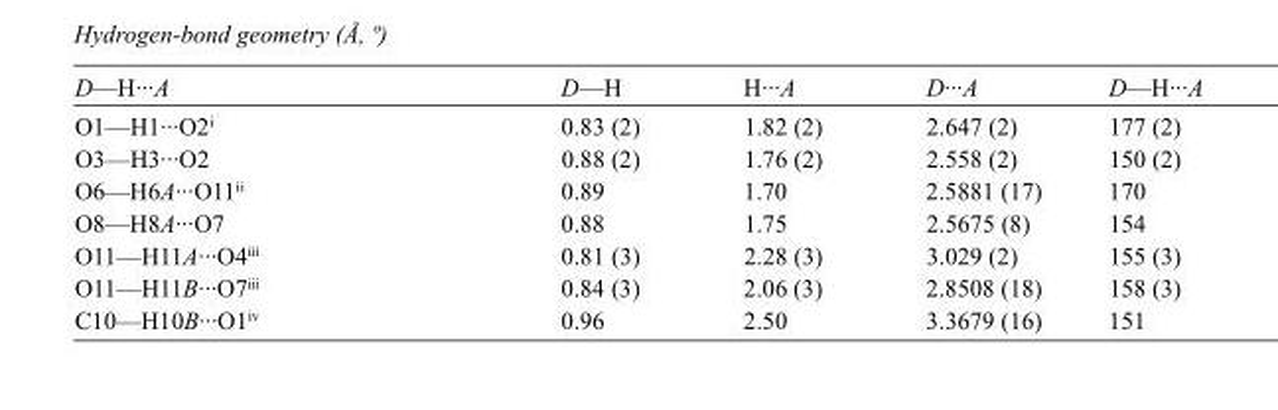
<table><tbody><tr><td>D—H···A</td><td>D—H</td><td>H···A</td><td>D···A</td><td>D—H···A</td></tr><tr><td>O1—H1···O2<sup>i</sup></td><td>0.83 (2)</td><td>1.82 (2)</td><td>2.647 (2)</td><td>177 (2)</td></tr><tr><td>O3—H3···O2</td><td>0.88 (2)</td><td>1.76 (2)</td><td>2.558 (2)</td><td>150 (2)</td></tr><tr><td>O6—H6A···O11<sup>ii</sup></td><td>0.89</td><td>1.70</td><td>2.5881 (17)</td><td>170</td></tr><tr><td>O8—H8A···O7</td><td>0.88</td><td>1.75</td><td>2.5675 (8)</td><td>154</td></tr><tr><td>O11—H11A···O4<sup>iii</sup></td><td>0.81 (3)</td><td>2.28 (3)</td><td>3.029 (2)</td><td>155 (3)</td></tr><tr><td>O11—H11B···O7<sup>iii</sup></td><td>0.84 (3)</td><td>2.06 (3)</td><td>2.8508 (18)</td><td>158 (3)</td></tr><tr><td>C10—H10B···O1<sup>iv</sup></td><td>0.96</td><td>2.50</td><td>3.3679 (16)</td><td>151</td></tr></tbody></table>